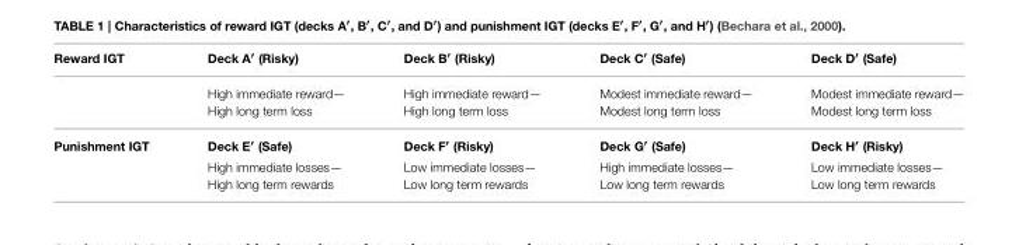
<table><thead><tr><td>Reward IGT</td><td>Deck A′ (Risky)</td><td>Deck B′ (Risky)</td><td>Deck C′ (Safe)</td><td>Deck D′ (Safe)</td></tr></thead><tbody><tr><td></td><td>High immediate reward— High long term loss</td><td>High immediate reward— High long term loss</td><td>Modest immediate reward— Modest long term loss</td><td>Modest immediate reward— Modest long term loss</td></tr><tr><td rowspan="2">Punishment IGT</td><td>Deck E′ (Safe)</td><td>Deck F′ (Risky)</td><td>Deck G′ (Safe)</td><td>Deck H′ (Risky)</td></tr><tr><td>High immediate losses— High long term rewards</td><td>Low immediate losses— Low long term rewards</td><td>High immediate losses— Low long term rewards</td><td>Low immediate losses— Low long term rewards</td></tr></tbody></table>